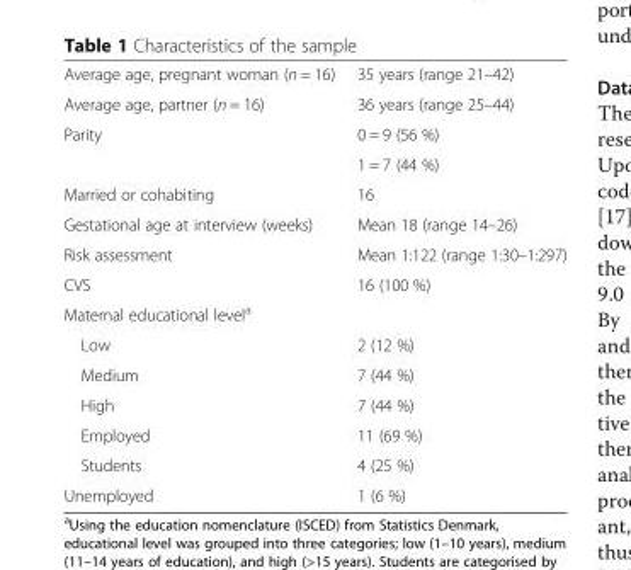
<table><tbody><tr><td>Average age, pregnant woman (n = 16)</td><td>35 years (range 21–42)</td></tr><tr><td>Average age, partner (n = 16)</td><td>36 years (range 25–44)</td></tr><tr><td rowspan="2">Parity</td><td>0 = 9 (56 %)</td></tr><tr><td>1 = 7 (44 %)</td></tr><tr><td>Married or cohabiting</td><td>16</td></tr><tr><td>Gestational age at interview (weeks)</td><td>Mean 18 (range 14–26)</td></tr><tr><td>Risk assessment</td><td>Mean 1:122 (range 1:30–1:297)</td></tr><tr><td>CVS</td><td>16 (100 %)</td></tr><tr><td colspan="2">Maternal educational level<sup>a</sup></td></tr><tr><td>Low</td><td>2 (12 %)</td></tr><tr><td>Medium</td><td>7 (44 %)</td></tr><tr><td>High</td><td>7 (44 %)</td></tr><tr><td>Employed</td><td>11 (69 %)</td></tr><tr><td>Students</td><td>4 (25 %)</td></tr><tr><td>Unemployed</td><td>1 (6 %)</td></tr></tbody></table>